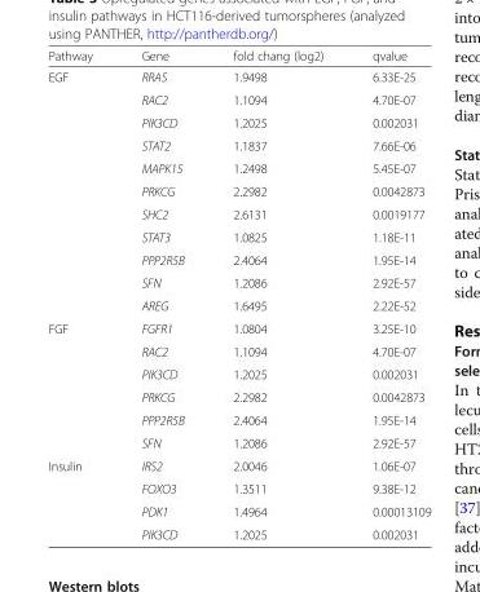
<table><thead><tr><td>Pathway</td><td>Gene</td><td>fold chang (log2)</td><td>qvalue</td></tr></thead><tbody><tr><td rowspan="11">EGF</td><td>RRAS</td><td>1.9498</td><td>6.33E-25</td></tr><tr><td>RAC2</td><td>1.1094</td><td>4.70E-07</td></tr><tr><td>PIK3CD</td><td>1.2025</td><td>0.002031</td></tr><tr><td>STAT2</td><td>1.1837</td><td>7.66E-06</td></tr><tr><td>MAPK15</td><td>1.2498</td><td>5.45E-07</td></tr><tr><td>PRKCG</td><td>2.2982</td><td>0.0042873</td></tr><tr><td>SHC2</td><td>2.6131</td><td>0.0019177</td></tr><tr><td>STAT3</td><td>1.0825</td><td>1.18E-11</td></tr><tr><td>PPP2R5B</td><td>2.4064</td><td>1.95E-14</td></tr><tr><td>SFN</td><td>1.2086</td><td>2.92E-57</td></tr><tr><td>AREG</td><td>1.6495</td><td>2.22E-52</td></tr><tr><td rowspan="6">FGF</td><td>FGFR1</td><td>1.0804</td><td>3.25E-10</td></tr><tr><td>RAC2</td><td>1.1094</td><td>4.70E-07</td></tr><tr><td>PIK3CD</td><td>1.2025</td><td>0.002031</td></tr><tr><td>PRKCG</td><td>2.2982</td><td>0.0042873</td></tr><tr><td>PPP2R5B</td><td>2.4064</td><td>1.95E-14</td></tr><tr><td>SFN</td><td>1.2086</td><td>2.92E-57</td></tr><tr><td rowspan="4">Insulin</td><td>IRS2</td><td>2.0046</td><td>1.06E-07</td></tr><tr><td>FOXO3</td><td>1.3511</td><td>9.38E-12</td></tr><tr><td>PDK1</td><td>1.4964</td><td>0.00013109</td></tr><tr><td>PIK3CD</td><td>1.2025</td><td>0.002031</td></tr></tbody></table>